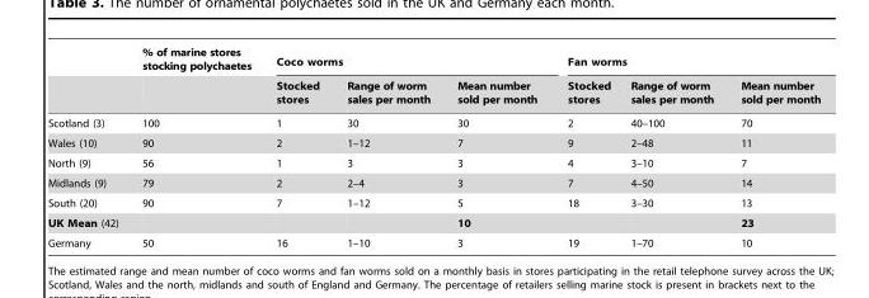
<table><thead><tr><td rowspan="2"></td><td rowspan="2">% of marine stores stocking polychaetes</td><td colspan="3">Coco worms</td><td colspan="3">Fan worms</td></tr><tr><td>Stocked stores</td><td>Range of worm sales per month</td><td>Mean number sold per month</td><td>Stocked stores</td><td>Range of worm sales per month</td><td>Mean number sold per month</td></tr></thead><tbody><tr><td>Scotland (3)</td><td>100</td><td>1</td><td>30</td><td>30</td><td>2</td><td>40–100</td><td>70</td></tr><tr><td>Wales (10)</td><td>90</td><td>2</td><td>1–12</td><td>7</td><td>9</td><td>2–48</td><td>11</td></tr><tr><td>North (9)</td><td>56</td><td>1</td><td>3</td><td>3</td><td>4</td><td>3–10</td><td>7</td></tr><tr><td>Midlands (9)</td><td>79</td><td>2</td><td>2–4</td><td>3</td><td>7</td><td>4–50</td><td>14</td></tr><tr><td>South (20)</td><td>90</td><td>7</td><td>1–12</td><td>5</td><td>18</td><td>3–30</td><td>13</td></tr><tr><td>UK Mean (42)</td><td></td><td></td><td></td><td>10</td><td></td><td></td><td>23</td></tr><tr><td>Germany</td><td>50</td><td>16</td><td>1–10</td><td>3</td><td>19</td><td>1–70</td><td>10</td></tr></tbody></table>